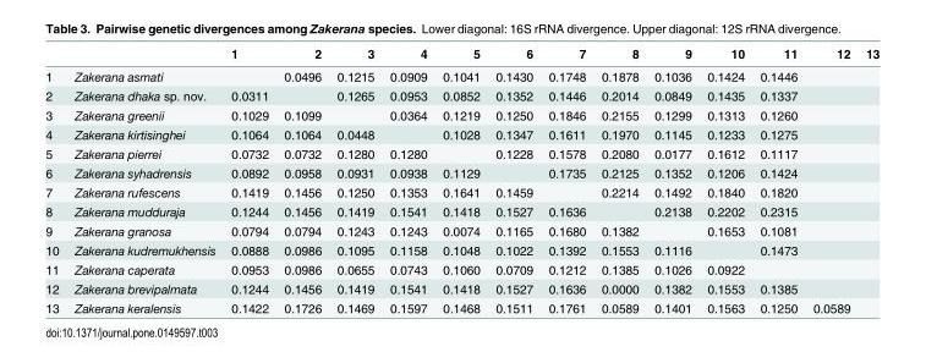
<table><thead><tr><td></td><td></td><td>1</td><td>2</td><td>3</td><td>4</td><td>5</td><td>6</td><td>7</td><td>8</td><td>9</td><td>10</td><td>11</td><td>12</td><td>13</td></tr></thead><tbody><tr><td>1</td><td>Zakerana asmati</td><td></td><td>0.0496</td><td>0.1215</td><td>0.0909</td><td>0.1041</td><td>0.1430</td><td>0.1748</td><td>0.1878</td><td>0.1036</td><td>0.1424</td><td>0.1446</td><td></td><td></td></tr><tr><td>2</td><td>Zakerana dhaka sp. nov.</td><td>0.0311</td><td></td><td>0.1265</td><td>0.0953</td><td>0.0852</td><td>0.1352</td><td>0.1446</td><td>0.2014</td><td>0.0849</td><td>0.1435</td><td>0.1337</td><td></td><td></td></tr><tr><td>3</td><td>Zakerana greenii</td><td>0.1029</td><td>0.1099</td><td></td><td>0.0364</td><td>0.1219</td><td>0.1250</td><td>0.1846</td><td>0.2155</td><td>0.1299</td><td>0.1313</td><td>0.1260</td><td></td><td></td></tr><tr><td>4</td><td>Zakerana kirtisinghei</td><td>0.1064</td><td>0.1064</td><td>0.0448</td><td></td><td>0.1028</td><td>0.1347</td><td>0.1611</td><td>0.1970</td><td>0.1145</td><td>0.1233</td><td>0.1275</td><td></td><td></td></tr><tr><td>5</td><td>Zakerana pierrei</td><td>0.0732</td><td>0.0732</td><td>0.1280</td><td>0.1280</td><td></td><td>0.1228</td><td>0.1578</td><td>0.2080</td><td>0.0177</td><td>0.1612</td><td>0.1117</td><td></td><td></td></tr><tr><td>6</td><td>Zakerana syhadrensis</td><td>0.0892</td><td>0.0958</td><td>0.0931</td><td>0.0938</td><td>0.1129</td><td></td><td>0.1735</td><td>0.2125</td><td>0.1352</td><td>0.1206</td><td>0.1424</td><td></td><td></td></tr><tr><td>7</td><td>Zakerana rufescens</td><td>0.1419</td><td>0.1456</td><td>0.1250</td><td>0.1353</td><td>0.1641</td><td>0.1459</td><td></td><td>0.2214</td><td>0.1492</td><td>0.1840</td><td>0.1820</td><td></td><td></td></tr><tr><td>8</td><td>Zakerana mudduraja</td><td>0.1244</td><td>0.1456</td><td>0.1419</td><td>0.1541</td><td>0.1418</td><td>0.1527</td><td>0.1636</td><td></td><td>0.2138</td><td>0.2202</td><td>0.2315</td><td></td><td></td></tr><tr><td>9</td><td>Zakerana granosa</td><td>0.0794</td><td>0.0794</td><td>0.1243</td><td>0.1243</td><td>0.0074</td><td>0.1165</td><td>0.1680</td><td>0.1382</td><td></td><td>0.1653</td><td>0.1081</td><td></td><td></td></tr><tr><td>10</td><td>Zakerana kudremukhensis</td><td>0.0888</td><td>0.0986</td><td>0.1095</td><td>0.1158</td><td>0.1048</td><td>0.1022</td><td>0.1392</td><td>0.1553</td><td>0.1116</td><td></td><td>0.1473</td><td></td><td></td></tr><tr><td>11</td><td>Zakerana caperata</td><td>0.0953</td><td>0.0986</td><td>0.0655</td><td>0.0743</td><td>0.1060</td><td>0.0709</td><td>0.1212</td><td>0.1385</td><td>0.1026</td><td>0.0922</td><td></td><td></td><td></td></tr><tr><td>12</td><td>Zakerana brevipalmata</td><td>0.1244</td><td>0.1456</td><td>0.1419</td><td>0.1541</td><td>0.1418</td><td>0.1527</td><td>0.1636</td><td>0.0000</td><td>0.1382</td><td>0.1553</td><td>0.1385</td><td></td><td></td></tr><tr><td>13</td><td>Zakerana keralensis</td><td>0.1422</td><td>0.1726</td><td>0.1469</td><td>0.1597</td><td>0.1468</td><td>0.1511</td><td>0.1761</td><td>0.0589</td><td>0.1401</td><td>0.1563</td><td>0.1250</td><td>0.0589</td><td></td></tr></tbody></table>